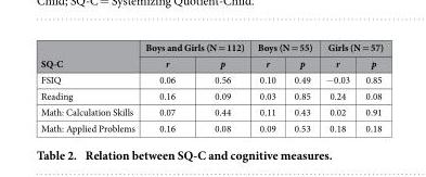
<table><thead><tr><td rowspan="2">SQ-C</td><td colspan="2">Boys and Girls (N = 112)</td><td colspan="2">Boys (N = 55)</td><td colspan="2">Girls (N = 57)</td></tr><tr><td>r</td><td>p</td><td>r</td><td>p</td><td>r</td><td>p</td></tr></thead><tbody><tr><td>FSIQ</td><td>0.06</td><td>0.56</td><td>0.10</td><td>0.49</td><td>− 0.03</td><td>0.85</td></tr><tr><td>Reading</td><td>0.16</td><td>0.09</td><td>0.03</td><td>0.85</td><td>0.24</td><td>0.08</td></tr><tr><td>Math: Calculation Skills</td><td>0.07</td><td>0.44</td><td>0.11</td><td>0.43</td><td>0.02</td><td>0.91</td></tr><tr><td>Math: Applied Problems</td><td>0.16</td><td>0.08</td><td>0.09</td><td>0.53</td><td>0.18</td><td>0.18</td></tr></tbody></table>